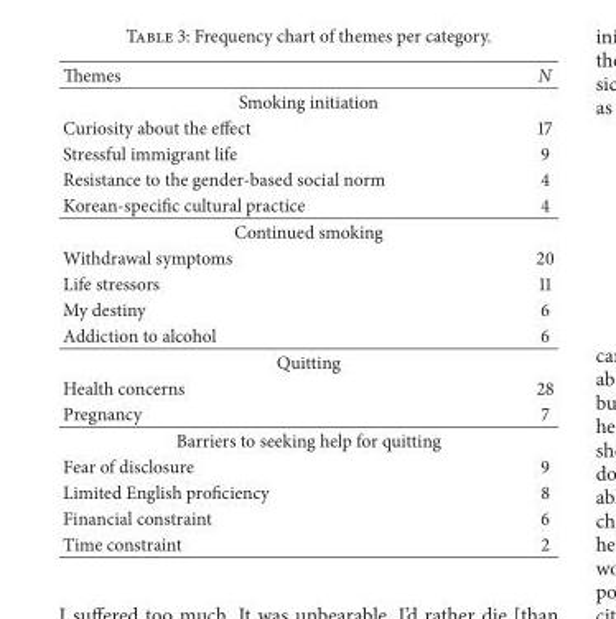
<table><thead><tr><td>Themes</td><td>N</td></tr></thead><tbody><tr><td colspan="2">Smoking initiation</td></tr><tr><td>Curiosity about the effect</td><td>17</td></tr><tr><td>Stressful immigrant life</td><td>9</td></tr><tr><td>Resistance to the gender-based social norm</td><td>4</td></tr><tr><td>Korean-specific cultural practice</td><td>4</td></tr><tr><td colspan="2">Continued smoking</td></tr><tr><td>Withdrawal symptoms</td><td>20</td></tr><tr><td>Life stressors</td><td>11</td></tr><tr><td>My destiny</td><td>6</td></tr><tr><td>Addiction to alcohol</td><td>6</td></tr><tr><td colspan="2">Quitting</td></tr><tr><td>Health concerns</td><td>28</td></tr><tr><td>Pregnancy</td><td>7</td></tr><tr><td colspan="2">Barriers to seeking help for quitting</td></tr><tr><td>Fear of disclosure</td><td>9</td></tr><tr><td>Limited English proficiency</td><td>8</td></tr><tr><td>Financial constraint</td><td>6</td></tr><tr><td>Time constraint</td><td>2</td></tr></tbody></table>